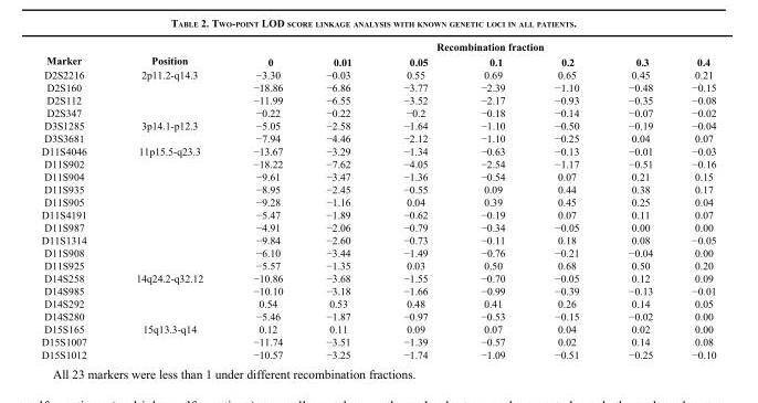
<table><thead><tr><td rowspan="2">Marker</td><td rowspan="2">Position</td><td colspan="7">Recombination fraction</td></tr><tr><td>0</td><td>0.01</td><td>0.05</td><td>0.1</td><td>0.2</td><td>0.3</td><td>0.4</td></tr></thead><tbody><tr><td>D2S2216</td><td>2p11.2-q14.3</td><td>−3.30</td><td>−0.03</td><td>0.55</td><td>0.69</td><td>0.65</td><td>0.45</td><td>0.21</td></tr><tr><td>D2S160</td><td></td><td>−18.86</td><td>−6.86</td><td>−3.77</td><td>−2.39</td><td>−1.10</td><td>−0.48</td><td>−0.15</td></tr><tr><td>D2S112</td><td></td><td>−11.99</td><td>−6.55</td><td>−3.52</td><td>−2.17</td><td>−0.93</td><td>−0.35</td><td>−0.08</td></tr><tr><td>D2S347</td><td></td><td>−0.22</td><td>−0.22</td><td>−0.2</td><td>−0.18</td><td>−0.14</td><td>−0.07</td><td>−0.02</td></tr><tr><td>D3S1285</td><td>3p14.1-p12.3</td><td>−5.05</td><td>−2.58</td><td>−1.64</td><td>−1.10</td><td>−0.50</td><td>−0.19</td><td>−0.04</td></tr><tr><td>D3S3681</td><td></td><td>−7.94</td><td>−4.46</td><td>−2.12</td><td>−1.10</td><td>−0.25</td><td>0.04</td><td>0.07</td></tr><tr><td>D11S4046</td><td>11p15.5-q23.3</td><td>−13.67</td><td>−3.29</td><td>−1.34</td><td>−0.63</td><td>−0.13</td><td>−0.01</td><td>−0.03</td></tr><tr><td>D11S902</td><td></td><td>−18.22</td><td>−7.62</td><td>−4.05</td><td>−2.54</td><td>−1.17</td><td>−0.51</td><td>−0.16</td></tr><tr><td>D11S904</td><td></td><td>−9.61</td><td>−3.47</td><td>−1.36</td><td>−0.54</td><td>0.07</td><td>0.21</td><td>0.15</td></tr><tr><td>D11S935</td><td></td><td>−8.95</td><td>−2.45</td><td>−0.55</td><td>0.09</td><td>0.44</td><td>0.38</td><td>0.17</td></tr><tr><td>D11S905</td><td></td><td>−9.28</td><td>−1.16</td><td>0.04</td><td>0.39</td><td>0.45</td><td>0.25</td><td>0.04</td></tr><tr><td>D11S4191</td><td></td><td>−5.47</td><td>−1.89</td><td>−0.62</td><td>−0.19</td><td>0.07</td><td>0.11</td><td>0.07</td></tr><tr><td>D11S987</td><td></td><td>−4.91</td><td>−2.06</td><td>−0.79</td><td>−0.34</td><td>−0.05</td><td>0.00</td><td>0.00</td></tr><tr><td>D11S1314</td><td></td><td>−9.84</td><td>−2.60</td><td>−0.73</td><td>−0.11</td><td>0.18</td><td>0.08</td><td>−0.05</td></tr><tr><td>D11S908</td><td></td><td>−6.10</td><td>−3.44</td><td>−1.49</td><td>−0.76</td><td>−0.21</td><td>−0.04</td><td>0.00</td></tr><tr><td>D11S925</td><td></td><td>−5.57</td><td>−1.35</td><td>0.03</td><td>0.50</td><td>0.68</td><td>0.50</td><td>0.20</td></tr><tr><td>D14S258</td><td>14q24.2-q32.12</td><td>−10.86</td><td>−3.68</td><td>−1.55</td><td>−0.70</td><td>−0.05</td><td>0.12</td><td>0.09</td></tr><tr><td>D14S985</td><td></td><td>−10.10</td><td>−3.18</td><td>−1.66</td><td>−0.99</td><td>−0.39</td><td>−0.13</td><td>−0.01</td></tr><tr><td>D14S292</td><td></td><td>0.54</td><td>0.53</td><td>0.48</td><td>0.41</td><td>0.26</td><td>0.14</td><td>0.05</td></tr><tr><td>D14S280</td><td></td><td>−5.46</td><td>−1.87</td><td>−0.97</td><td>−0.53</td><td>−0.15</td><td>−0.02</td><td>0.00</td></tr><tr><td>D15S165</td><td>15q13.3-q14</td><td>0.12</td><td>0.11</td><td>0.09</td><td>0.07</td><td>0.04</td><td>0.02</td><td>0.00</td></tr><tr><td>D15S1007</td><td></td><td>−11.74</td><td>−3.51</td><td>−1.39</td><td>−0.57</td><td>0.02</td><td>0.14</td><td>0.08</td></tr><tr><td>D15S1012</td><td></td><td>−10.57</td><td>−3.25</td><td>−1.74</td><td>−1.09</td><td>−0.51</td><td>−0.25</td><td>−0.10</td></tr></tbody></table>